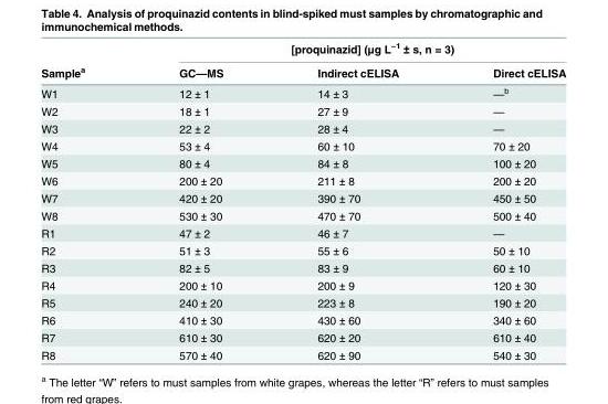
<table><thead><tr><td rowspan="2">Sample<sup>a</sup></td><td colspan="3">[proquinazid] (μg L<sup>−1</sup> ± s, n = 3)</td></tr><tr><td>GC—MS</td><td>Indirect cELISA</td><td>Direct cELISA</td></tr></thead><tbody><tr><td>W1</td><td>12 ± 1</td><td>14 ± 3</td><td>—b</td></tr><tr><td>W2</td><td>18 ± 1</td><td>27 ± 9</td><td>—</td></tr><tr><td>W3</td><td>22 ± 2</td><td>28 ± 4</td><td>—</td></tr><tr><td>W4</td><td>53 ± 4</td><td>60 ± 10</td><td>70 ± 20</td></tr><tr><td>W5</td><td>80 ± 4</td><td>84 ± 8</td><td>100 ± 20</td></tr><tr><td>W6</td><td>200 ± 20</td><td>211 ± 8</td><td>200 ± 20</td></tr><tr><td>W7</td><td>420 ± 20</td><td>390 ± 70</td><td>450 ± 50</td></tr><tr><td>W8</td><td>530 ± 30</td><td>470 ± 70</td><td>500 ± 40</td></tr><tr><td>R1</td><td>47 ± 2</td><td>46 ± 7</td><td>—</td></tr><tr><td>R2</td><td>51 ± 3</td><td>55 ± 6</td><td>50 ± 10</td></tr><tr><td>R3</td><td>82 ± 5</td><td>83 ± 9</td><td>60 ± 10</td></tr><tr><td>R4</td><td>200 ± 10</td><td>200 ± 9</td><td>120 ± 30</td></tr><tr><td>R5</td><td>240 ± 20</td><td>223 ± 8</td><td>190 ± 20</td></tr><tr><td>R6</td><td>410 ± 30</td><td>430 ± 60</td><td>340 ± 60</td></tr><tr><td>R7</td><td>610 ± 30</td><td>620 ± 20</td><td>610 ± 40</td></tr><tr><td>R8</td><td>570 ± 40</td><td>620 ± 90</td><td>540 ± 30</td></tr></tbody></table>